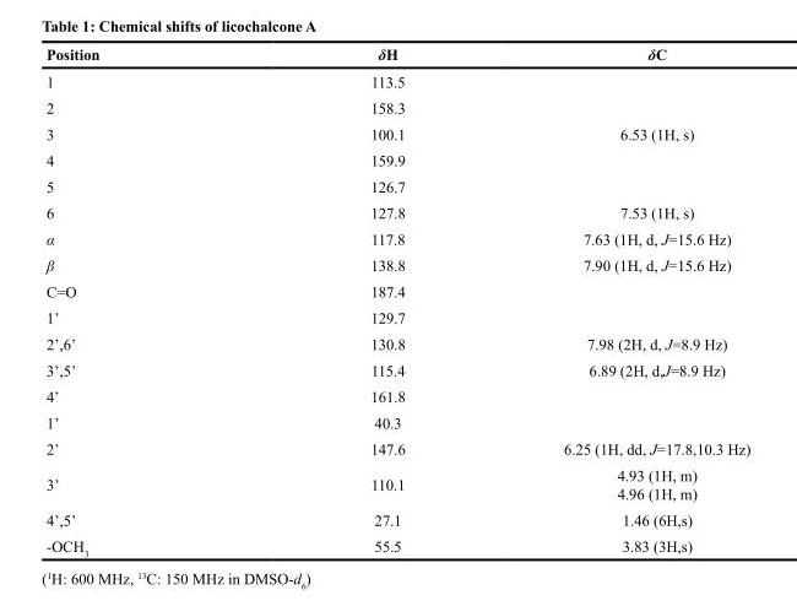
<table><thead><tr><td>Position</td><td>δH</td><td>δC</td></tr></thead><tbody><tr><td>1</td><td>113.5</td><td></td></tr><tr><td>2</td><td>158.3</td><td></td></tr><tr><td>3</td><td>100.1</td><td>6.53 (1H, s)</td></tr><tr><td>4</td><td>159.9</td><td></td></tr><tr><td>5</td><td>126.7</td><td></td></tr><tr><td>6</td><td>127.8</td><td>7.53 (1H, s)</td></tr><tr><td>α</td><td>117.8</td><td>7.63 (1H, d, J=15.6 Hz)</td></tr><tr><td>β</td><td>138.8</td><td>7.90 (1H, d, J=15.6 Hz)</td></tr><tr><td>C=O</td><td>187.4</td><td></td></tr><tr><td>1’</td><td>129.7</td><td></td></tr><tr><td>2’,6’</td><td>130.8</td><td>7.98 (2H, d, J=8.9 Hz)</td></tr><tr><td>3’,5’</td><td>115.4</td><td>6.89 (2H, d,J=8.9 Hz)</td></tr><tr><td>4’</td><td>161.8</td><td></td></tr><tr><td>1’</td><td>40.3</td><td></td></tr><tr><td>2’</td><td>147.6</td><td>6.25 (1H, dd, J=17.8,10.3 Hz)</td></tr><tr><td>3’</td><td>110.1</td><td>4.93 (1H, m) 4.96 (1H, m)</td></tr><tr><td>4’,5’</td><td>27.1</td><td>1.46 (6H,s)</td></tr><tr><td>-OCH<sub>3</sub></td><td>55.5</td><td>3.83 (3H,s)</td></tr></tbody></table>